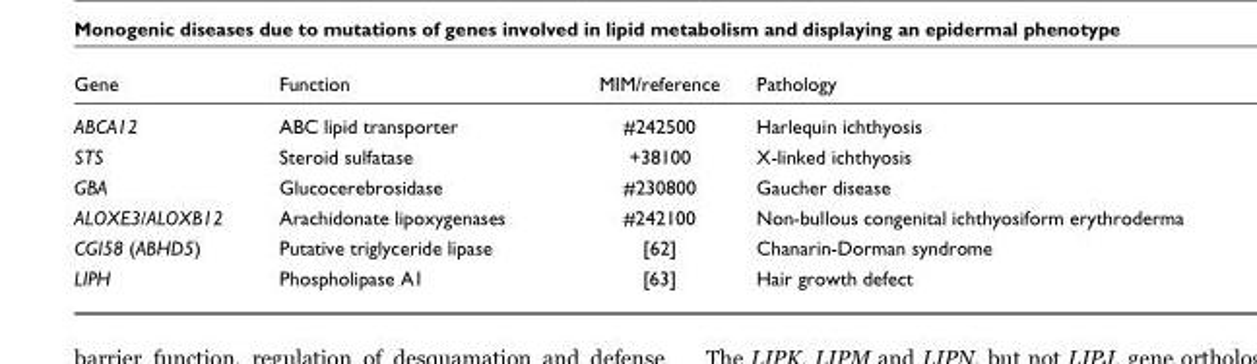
<table><thead><tr><td>Gene</td><td>Function</td><td>MIM/reference</td><td>Pathology</td></tr></thead><tbody><tr><td>ABCA12</td><td>ABC lipid transporter</td><td>#242500</td><td>Harlequin ichthyosis</td></tr><tr><td>STS</td><td>Steroid sulfatase</td><td>+38100</td><td>X-linked ichthyosis</td></tr><tr><td>GBA</td><td>Glucocerebrosidase</td><td>#230800</td><td>Gaucher disease</td></tr><tr><td>ALOXE3/ALOXB12</td><td>Arachidonate lipoxygenases</td><td>#242100</td><td>Non-bullous congenital ichthyosiform erythroderma</td></tr><tr><td>CGI58 (ABHD5)</td><td>Putative triglyceride lipase</td><td>[62]</td><td>Chanarin-Dorman syndrome</td></tr><tr><td>LIPH</td><td>Phospholipase A1</td><td>[63]</td><td>Hair growth defect</td></tr></tbody></table>